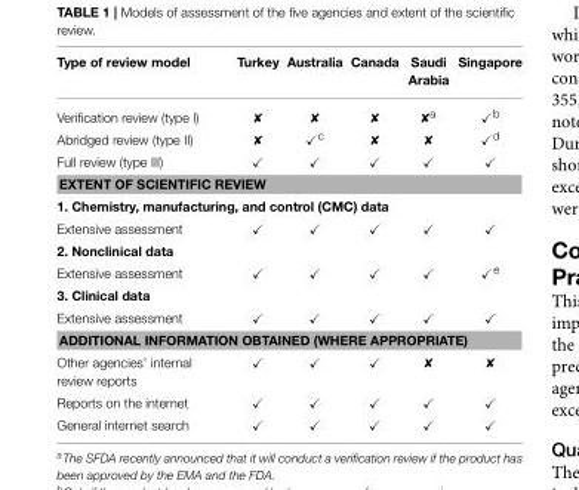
<table><thead><tr><td>Type of review model</td><td>Turkey</td><td>Australia</td><td>Canada</td><td>Saudi Arabia</td><td>Singapore</td></tr></thead><tbody><tr><td>Verification review (type I)</td><td></td><td></td><td></td><td>a</td><td>✓<sup>b</sup></td></tr><tr><td>Abridged review (type II)</td><td></td><td>✓<sup>c</sup></td><td></td><td></td><td>✓<sup>d</sup></td></tr><tr><td>Full review (type III)</td><td>✓</td><td>✓</td><td>✓</td><td>✓</td><td>✓</td></tr><tr><td colspan="6">EXTENT OF SCIENTIFIC REVIEW</td></tr><tr><td colspan="6">1. Chemistry, manufacturing, and control (CMC) data</td></tr><tr><td>Extensive assessment</td><td>✓</td><td>✓</td><td>✓</td><td>✓</td><td>✓</td></tr><tr><td colspan="6">2. Nonclinical data</td></tr><tr><td>Extensive assessment</td><td>✓</td><td>✓</td><td>✓</td><td>✓</td><td>✓<sup>e</sup></td></tr><tr><td colspan="6">3. Clinical data</td></tr><tr><td>Extensive assessment</td><td>✓</td><td>✓</td><td>✓</td><td>✓</td><td>✓</td></tr><tr><td colspan="6">ADDITIONAL INFORMATION OBTAINED (WHERE APPROPRIATE)</td></tr><tr><td>Other agencies’ internal review reports</td><td>✓</td><td>✓</td><td>✓</td><td></td><td></td></tr><tr><td>Reports on the internet</td><td>✓</td><td>✓</td><td>✓</td><td>✓</td><td>✓</td></tr><tr><td>General internet search</td><td>✓</td><td>✓</td><td>✓</td><td>✓</td><td>✓</td></tr></tbody></table>